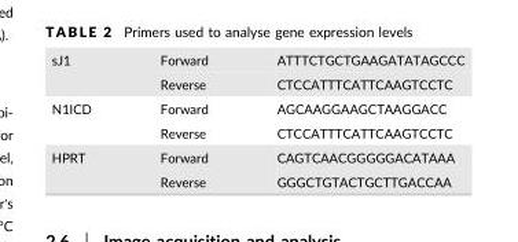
<table><tbody><tr><td rowspan="2">sJ1</td><td>Forward</td><td>ATTTCTGCTGAAGATATAGCCC</td></tr><tr><td>Reverse</td><td>CTCCATTTCATTCAAGTCCTC</td></tr><tr><td rowspan="2">N1ICD</td><td>Forward</td><td>AGCAAGGAAGCTAAGGACC</td></tr><tr><td>Reverse</td><td>CTCCATTTCATTCAAGTCCTC</td></tr><tr><td rowspan="2">HPRT</td><td>Forward</td><td>CAGTCAACGGGGGACATAAA</td></tr><tr><td>Reverse</td><td>GGGCTGTACTGCTTGACCAA</td></tr></tbody></table>